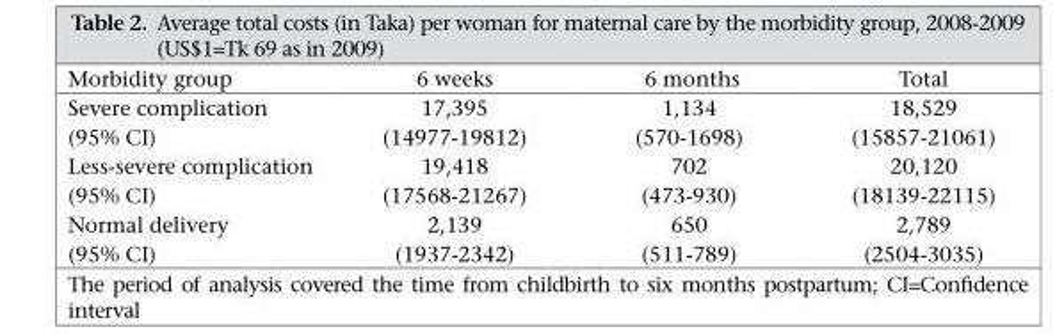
<table><thead><tr><td>Morbidity group</td><td>6 weeks</td><td>6 months</td><td>Total</td></tr></thead><tbody><tr><td>Severe complication</td><td>17,395</td><td>1,134</td><td>18,529</td></tr><tr><td>(95% CI)</td><td>(14977-19812)</td><td>(570-1698)</td><td>(15857-21061)</td></tr><tr><td>Less-severe complication</td><td>19,418</td><td>702</td><td>20,120</td></tr><tr><td>(95% CI)</td><td>(17568-21267)</td><td>(473-930)</td><td>(18139-22115)</td></tr><tr><td>Normal delivery</td><td>2,139</td><td>650</td><td>2,789</td></tr><tr><td>(95% CI)</td><td>(1937-2342)</td><td>(511-789)</td><td>(2504-3035)</td></tr></tbody></table>